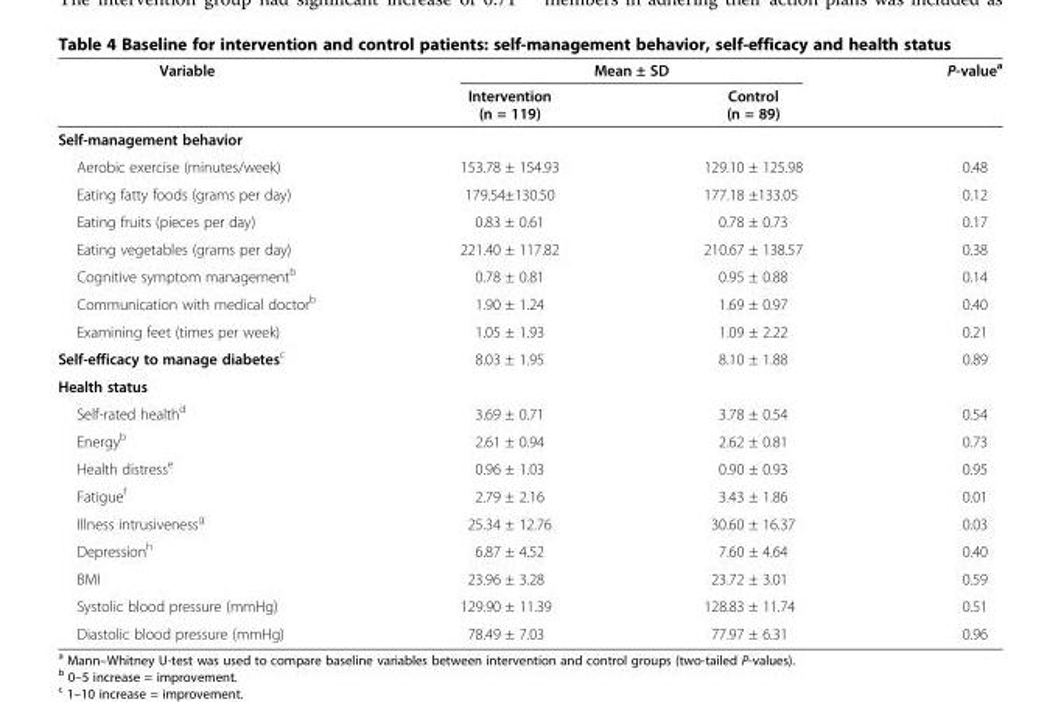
<table><thead><tr><td rowspan="2">Variable</td><td colspan="2">Mean ± SD</td><td rowspan="2">P-value<sup>a</sup></td></tr><tr><td>Intervention (n = 119)</td><td>Control (n = 89)</td></tr></thead><tbody><tr><td colspan="4">Self-management behavior</td></tr><tr><td>Aerobic exercise (minutes/week)</td><td>153.78 ± 154.93</td><td>129.10 ± 125.98</td><td>0.48</td></tr><tr><td>Eating fatty foods (grams per day)</td><td>179.54±130.50</td><td>177.18 ±133.05</td><td>0.12</td></tr><tr><td>Eating fruits (pieces per day)</td><td>0.83 ± 0.61</td><td>0.78 ± 0.73</td><td>0.17</td></tr><tr><td>Eating vegetables (grams per day)</td><td>221.40 ± 117.82</td><td>210.67 ± 138.57</td><td>0.38</td></tr><tr><td>Cognitive symptom management<sup>b</sup></td><td>0.78 ± 0.81</td><td>0.95 ± 0.88</td><td>0.14</td></tr><tr><td>Communication with medical doctor<sup>b</sup></td><td>1.90 ± 1.24</td><td>1.69 ± 0.97</td><td>0.40</td></tr><tr><td>Examining feet (times per week)</td><td>1.05 ± 1.93</td><td>1.09 ± 2.22</td><td>0.21</td></tr><tr><td>Self-efficacy to manage diabetes<sup>c</sup></td><td>8.03 ± 1.95</td><td>8.10 ± 1.88</td><td>0.89</td></tr><tr><td colspan="4">Health status</td></tr><tr><td>Self-rated health<sup>d</sup></td><td>3.69 ± 0.71</td><td>3.78 ± 0.54</td><td>0.54</td></tr><tr><td>Energy<sup>b</sup></td><td>2.61 ± 0.94</td><td>2.62 ± 0.81</td><td>0.73</td></tr><tr><td>Health distress<sup>e</sup></td><td>0.96 ± 1.03</td><td>0.90 ± 0.93</td><td>0.95</td></tr><tr><td>Fatigue<sup>f</sup></td><td>2.79 ± 2.16</td><td>3.43 ± 1.86</td><td>0.01</td></tr><tr><td>Illness intrusiveness<sup>g</sup></td><td>25.34 ± 12.76</td><td>30.60 ± 16.37</td><td>0.03</td></tr><tr><td>Depression<sup>h</sup></td><td>6.87 ± 4.52</td><td>7.60 ± 4.64</td><td>0.40</td></tr><tr><td>BMI</td><td>23.96 ± 3.28</td><td>23.72 ± 3.01</td><td>0.59</td></tr><tr><td>Systolic blood pressure (mmHg)</td><td>129.90 ± 11.39</td><td>128.83 ± 11.74</td><td>0.51</td></tr><tr><td>Diastolic blood pressure (mmHg)</td><td>78.49 ± 7.03</td><td>77.97 ± 6.31</td><td>0.96</td></tr></tbody></table>